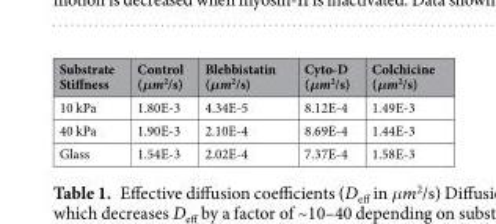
<table><thead><tr><td>Substrate Stiffness</td><td>Control (μm<sup>2</sup>/s)</td><td>Blebbistatin (μm<sup>2</sup>/s)</td><td>Cyto-D (μm<sup>2</sup>/s)</td><td>Colchicine (μm<sup>2</sup>/s)</td></tr></thead><tbody><tr><td>10 kPa</td><td>1.80E-3</td><td>4.34E-5</td><td>8.12E-4</td><td>1.49E-3</td></tr><tr><td>40 kPa</td><td>1.90E-3</td><td>2.10E-4</td><td>8.69E-4</td><td>1.44E-3</td></tr><tr><td>Glass</td><td>1.54E-3</td><td>2.02E-4</td><td>7.37E-4</td><td>1.58E-3</td></tr></tbody></table>